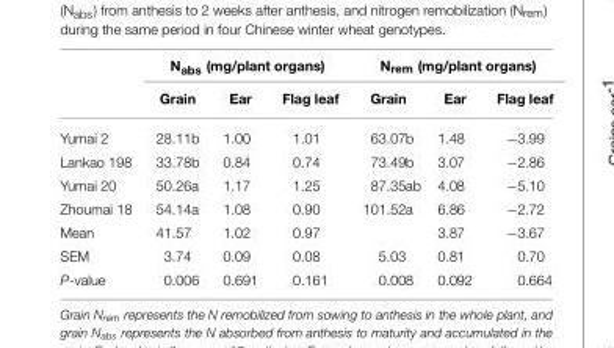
<table><thead><tr><td rowspan="2"></td><td colspan="3">N<sub>abs</sub> (mg/plant organs)</td><td colspan="3">N<sub>rem</sub> (mg/plant organs)</td></tr><tr><td>Grain</td><td>Ear</td><td>Flag leaf</td><td>Grain</td><td>Ear</td><td>Flag leaf</td></tr></thead><tbody><tr><td>Yumai 2</td><td>28.11b</td><td>1.00</td><td>1.01</td><td>63.07b</td><td>1.48</td><td>−3.99</td></tr><tr><td>Lankao 198</td><td>33.78b</td><td>0.84</td><td>0.74</td><td>73.49b</td><td>3.07</td><td>−2.86</td></tr><tr><td>Yumai 20</td><td>50.26a</td><td>1.17</td><td>1.25</td><td>87.35ab</td><td>4.08</td><td>−5.10</td></tr><tr><td>Zhoumai 18</td><td>54.14a</td><td>1.08</td><td>0.90</td><td>101.52a</td><td>6.86</td><td>−2.72</td></tr><tr><td>Mean</td><td>41.57</td><td>1.02</td><td>0.97</td><td></td><td>3.87</td><td>−3.67</td></tr><tr><td>SEM</td><td>3.74</td><td>0.09</td><td>0.08</td><td>5.03</td><td>0.81</td><td>0.70</td></tr><tr><td>P-value</td><td>0.006</td><td>0.691</td><td>0.161</td><td>0.008</td><td>0.092</td><td>0.664</td></tr></tbody></table>